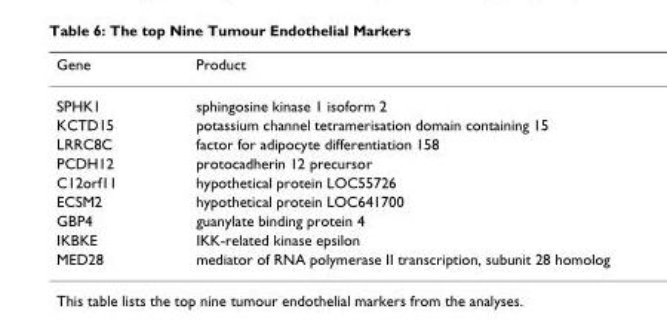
<table><thead><tr><td>Gene</td><td>Product</td></tr></thead><tbody><tr><td>SPHK1</td><td>sphingosine kinase 1 isoform 2</td></tr><tr><td>KCTD15</td><td>potassium channel tetramerisation domain containing 15</td></tr><tr><td>LRRC8C</td><td>factor for adipocyte differentiation 158</td></tr><tr><td>PCDH12</td><td>protocadherin 12 precursor</td></tr><tr><td>C12orf11</td><td>hypothetical protein LOC55726</td></tr><tr><td>ECSM2</td><td>hypothetical protein LOC641700</td></tr><tr><td>GBP4</td><td>guanylate binding protein 4</td></tr><tr><td>IKBKE</td><td>IKK-related kinase epsilon</td></tr><tr><td>MED28</td><td>mediator of RNA polymerase II transcription, subunit 28 homolog</td></tr></tbody></table>